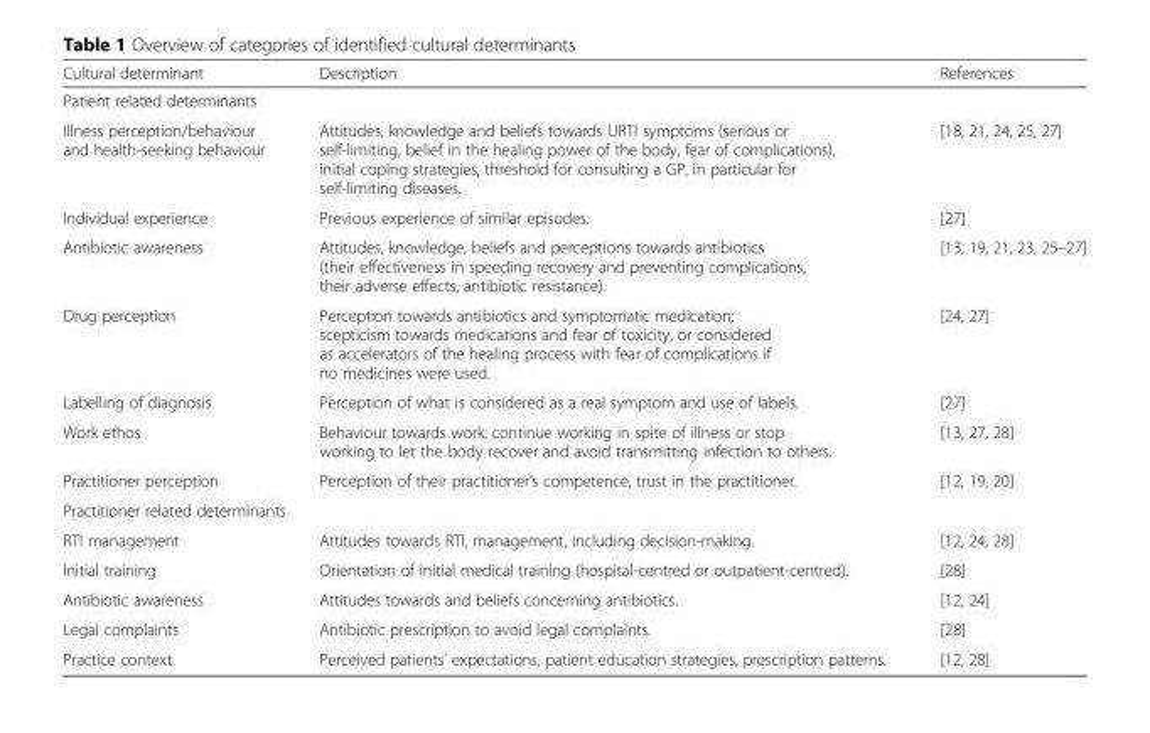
<table><thead><tr><td>Cultural determinant</td><td>Description</td><td>References</td></tr></thead><tbody><tr><td colspan="3">Patient related determinants</td></tr><tr><td>Illness perception/behaviour and health-seeking behaviour</td><td>Attitudes, knowledge and beliefs towards URTI symptoms (serious or self-limiting, belief in the healing power of the body, fear of complications), initial coping strategies, threshold for consulting a GP, in particular for self-limiting diseases.</td><td>[18, 21, 24, 25, 27]</td></tr><tr><td>Individual experience</td><td>Previous experience of similar episodes.</td><td>[27]</td></tr><tr><td>Antibiotic awareness</td><td>Attitudes, knowledge, beliefs and perceptions towards antibiotics (their effectiveness in speeding recovery and preventing complications, their adverse effects, antibiotic resistance).</td><td>[13, 19, 21, 23, 25–27]</td></tr><tr><td>Drug perception</td><td>Perception towards antibiotics and symptomatic medication: scepticism towards medications and fear of toxicity, or considered as accelerators of the healing process with fear of complications if no medicines were used.</td><td>[24, 27]</td></tr><tr><td>Labelling of diagnosis</td><td>Perception of what is considered as a real symptom and use of labels.</td><td>[27]</td></tr><tr><td>Work ethos</td><td>Behaviour towards work: continue working in spite of illness or stop working to let the body recover and avoid transmitting infection to others.</td><td>[13, 27, 28]</td></tr><tr><td>Practitioner perception</td><td>Perception of their practitioner’s competence, trust in the practitioner.</td><td>[12, 19, 20]</td></tr><tr><td colspan="3">Practitioner related determinants</td></tr><tr><td>RTI management</td><td>Attitudes towards RTI, management, including decision-making.</td><td>[12, 24, 28]</td></tr><tr><td>Initial training</td><td>Orientation of initial medical training (hospital-centred or outpatient-centred).</td><td>[28]</td></tr><tr><td>Antibiotic awareness</td><td>Attitudes towards and beliefs concerning antibiotics.</td><td>[12, 24]</td></tr><tr><td>Legal complaints</td><td>Antibiotic prescription to avoid legal complaints.</td><td>[28]</td></tr><tr><td>Practice context</td><td>Perceived patients’ expectations, patient education strategies, prescription patterns.</td><td>[12, 28]</td></tr></tbody></table>